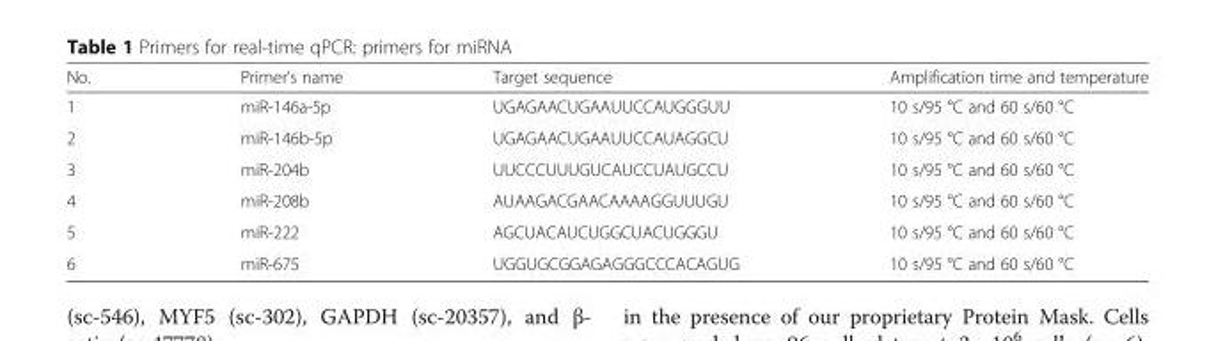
<table><thead><tr><td>No.</td><td>Primer’s name</td><td>Target sequence</td><td>Amplification time and temperature</td></tr></thead><tbody><tr><td>1</td><td>miR-146a-5p</td><td>UGAGAACUGAAUUCCAUGGGUU</td><td>10 s/95 °C and 60 s/60 °C</td></tr><tr><td>2</td><td>miR-146b-5p</td><td>UGAGAACUGAAUUCCAUAGGCU</td><td>10 s/95 °C and 60 s/60 °C</td></tr><tr><td>3</td><td>miR-204b</td><td>UUCCCUUUGUCAUCCUAUGCCU</td><td>10 s/95 °C and 60 s/60 °C</td></tr><tr><td>4</td><td>miR-208b</td><td>AUAAGACGAACAAAAGGUUUGU</td><td>10 s/95 °C and 60 s/60 °C</td></tr><tr><td>5</td><td>miR-222</td><td>AGCUACAUCUGGCUACUGGGU</td><td>10 s/95 °C and 60 s/60 °C</td></tr><tr><td>6</td><td>miR-675</td><td>UGGUGCGGAGAGGGCCCACAGUG</td><td>10 s/95 °C and 60 s/60 °C</td></tr></tbody></table>